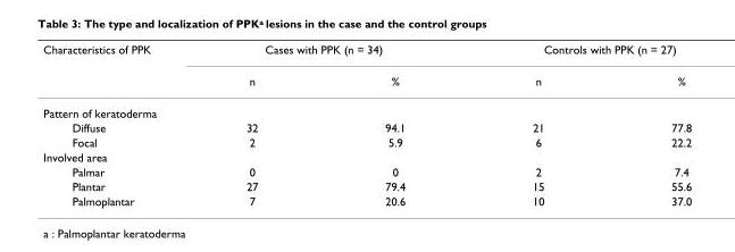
<table><thead><tr><td rowspan="2">Characteristics of PPK</td><td colspan="2">Cases with PPK (n = 34)</td><td colspan="2">Controls with PPK (n = 27)</td></tr><tr><td>n</td><td>%</td><td>n</td><td>%</td></tr></thead><tbody><tr><td colspan="5">Pattern of keratoderma</td></tr><tr><td>Diffuse</td><td>32</td><td>94.1</td><td>21</td><td>77.8</td></tr><tr><td>Focal</td><td>2</td><td>5.9</td><td>6</td><td>22.2</td></tr><tr><td colspan="5">Involved area</td></tr><tr><td>Palmar</td><td>0</td><td>0</td><td>2</td><td>7.4</td></tr><tr><td>Plantar</td><td>27</td><td>79.4</td><td>15</td><td>55.6</td></tr><tr><td>Palmoplantar</td><td>7</td><td>20.6</td><td>10</td><td>37.0</td></tr></tbody></table>